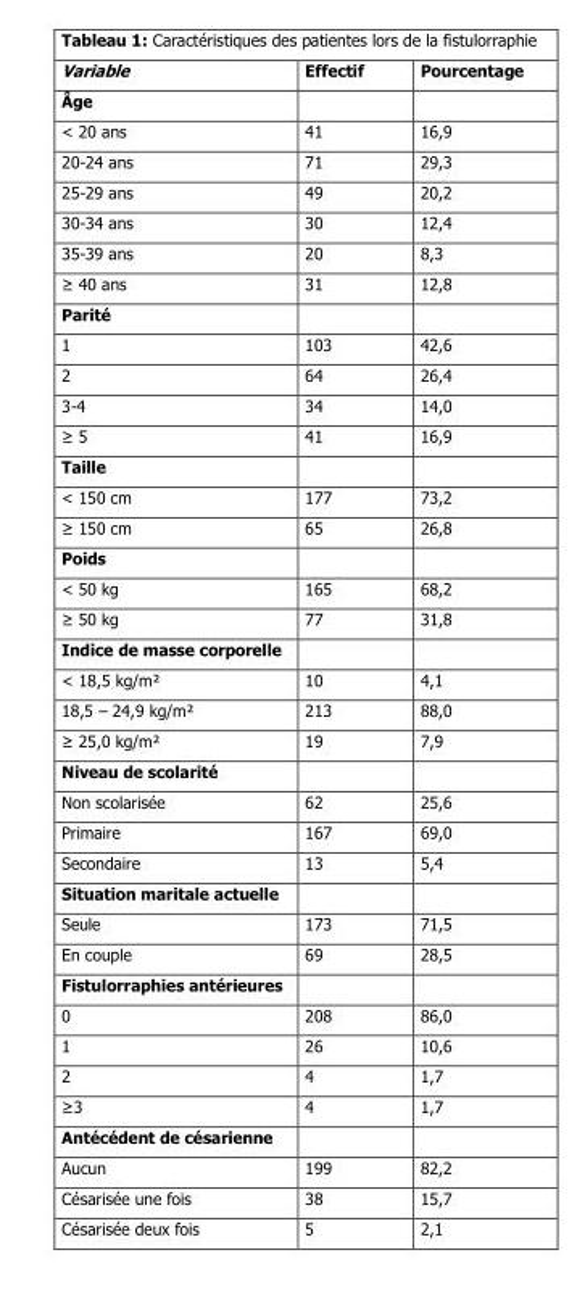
<table><thead><tr><td>Variable</td><td>Effectif</td><td>Pourcentage</td></tr></thead><tbody><tr><td colspan="3">Âge</td></tr><tr><td>&lt; 20 ans</td><td>41</td><td>16,9</td></tr><tr><td>20-24 ans</td><td>71</td><td>29,3</td></tr><tr><td>25-29 ans</td><td>49</td><td>20,2</td></tr><tr><td>30-34 ans</td><td>30</td><td>12,4</td></tr><tr><td>35-39 ans</td><td>20</td><td>8,3</td></tr><tr><td>≥ 40 ans</td><td>31</td><td>12,8</td></tr><tr><td colspan="3">Parité</td></tr><tr><td>1</td><td>103</td><td>42,6</td></tr><tr><td>2</td><td>64</td><td>26,4</td></tr><tr><td>3-4</td><td>34</td><td>14,0</td></tr><tr><td>≥ 5</td><td>41</td><td>16,9</td></tr><tr><td colspan="3">Taille</td></tr><tr><td>&lt; 150 cm</td><td>177</td><td>73,2</td></tr><tr><td>≥ 150 cm</td><td>65</td><td>26,8</td></tr><tr><td colspan="3">Poids</td></tr><tr><td>&lt; 50 kg</td><td>165</td><td>68,2</td></tr><tr><td>≥ 50 kg</td><td>77</td><td>31,8</td></tr><tr><td colspan="3">Indice de masse corporelle</td></tr><tr><td>&lt; 18,5 kg/m²</td><td>10</td><td>4,1</td></tr><tr><td>18,5 – 24,9 kg/m²</td><td>213</td><td>88,0</td></tr><tr><td>≥ 25,0 kg/m²</td><td>19</td><td>7,9</td></tr><tr><td colspan="3">Niveau de scolarité</td></tr><tr><td>Non scolarisée</td><td>62</td><td>25,6</td></tr><tr><td>Primaire</td><td>167</td><td>69,0</td></tr><tr><td>Secondaire</td><td>13</td><td>5,4</td></tr><tr><td colspan="3">Situation maritale actuelle</td></tr><tr><td>Seule</td><td>173</td><td>71,5</td></tr><tr><td>En couple</td><td>69</td><td>28,5</td></tr><tr><td colspan="3">Fistulorraphies antérieures</td></tr><tr><td>0</td><td>208</td><td>86,0</td></tr><tr><td>1</td><td>26</td><td>10,6</td></tr><tr><td>2</td><td>4</td><td>1,7</td></tr><tr><td>≥3</td><td>4</td><td>1,7</td></tr><tr><td colspan="3">Antécédent de césarienne</td></tr><tr><td>Aucun</td><td>199</td><td>82,2</td></tr><tr><td>Césarisée une fois</td><td>38</td><td>15,7</td></tr><tr><td>Césarisée deux fois</td><td>5</td><td>2,1</td></tr></tbody></table>